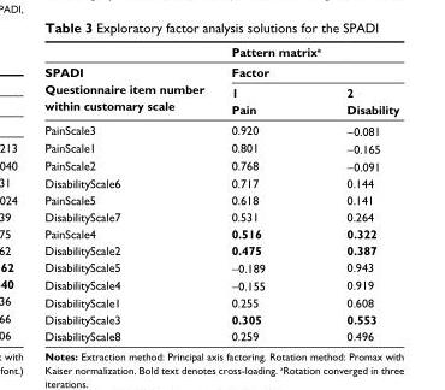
<table><thead><tr><td colspan="3">Pattern matrix<sup>a</sup></td></tr><tr><td rowspan="2">SPADI Questionnaire item number within customary scale</td><td colspan="2">Factor</td></tr><tr><td>1 Pain</td><td>2 Disability</td></tr></thead><tbody><tr><td>PainScale3</td><td>0.920</td><td>−0.081</td></tr><tr><td>PainScale1</td><td>0.801</td><td>−0.165</td></tr><tr><td>PainScale2</td><td>0.768</td><td>−0.091</td></tr><tr><td>DisabilityScale6</td><td>0.717</td><td>0.144</td></tr><tr><td>PainScale5</td><td>0.618</td><td>0.141</td></tr><tr><td>DisabilityScale7</td><td>0.531</td><td>0.264</td></tr><tr><td>PainScale4</td><td>0.516</td><td>0.322</td></tr><tr><td>DisabilityScale2</td><td>0.475</td><td>0.387</td></tr><tr><td>DisabilityScale5</td><td>−0.189</td><td>0.943</td></tr><tr><td>DisabilityScale4</td><td>−0.155</td><td>0.919</td></tr><tr><td>DisabilityScale1</td><td>0.255</td><td>0.608</td></tr><tr><td>DisabilityScale3</td><td>0.305</td><td>0.553</td></tr><tr><td>DisabilityScale8</td><td>0.259</td><td>0.496</td></tr></tbody></table>